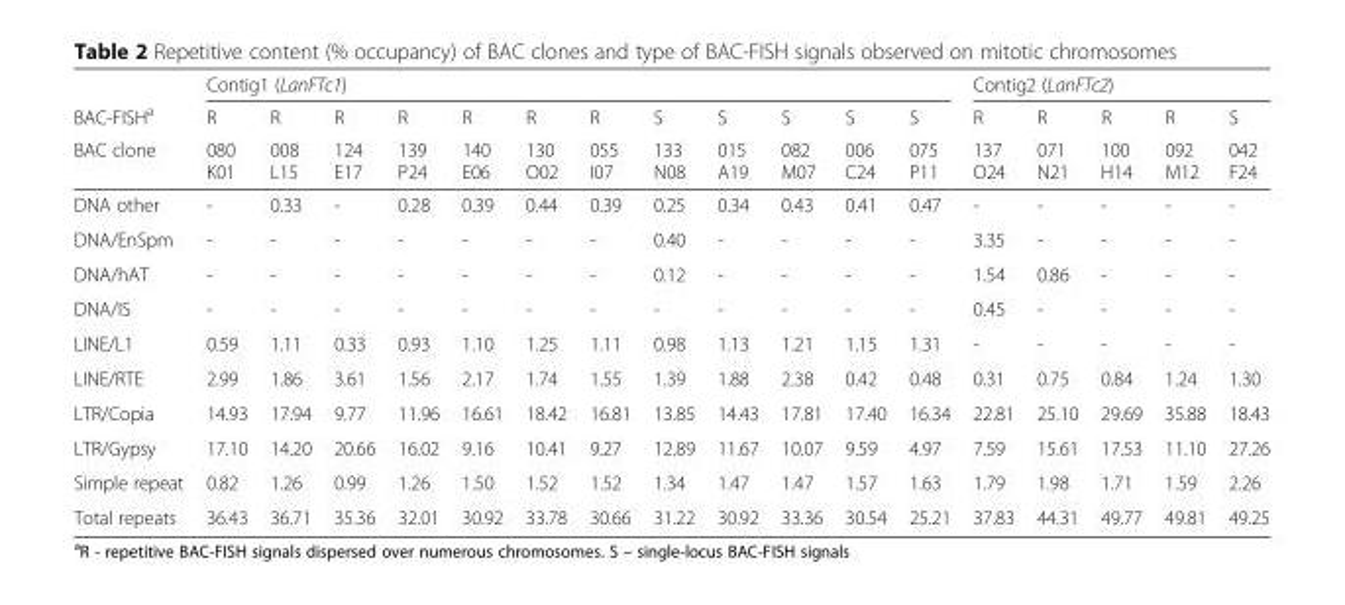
<table><thead><tr><td rowspan="3">BAC-FISH<sup>a</sup> BAC clone</td><td colspan="12">Contig1 (LanFTc1)</td><td colspan="5">Contig2 (LanFTc2)</td></tr><tr><td rowspan="2">R 080 K01</td><td rowspan="2">R 008 L15</td><td rowspan="2">R 124 E17</td><td rowspan="2">R 139 P24</td><td rowspan="2">R 140 E06</td><td rowspan="2">R 130 O02</td><td rowspan="2">R 055 I07</td><td rowspan="2">S 133 N08</td><td rowspan="2">S 015 A19</td><td rowspan="2">S 082 M07</td><td rowspan="2">S 006 C24</td><td rowspan="2">S 075 P11</td><td rowspan="2">R 137 O24</td><td rowspan="2">R 071 N21</td><td rowspan="2">R 100 H14</td><td rowspan="2">R 092 M12</td><td rowspan="2">S 042 F24</td></tr><tr></tr></thead><tbody><tr><td>DNA other</td><td>-</td><td>0.33</td><td>-</td><td>0.28</td><td>0.39</td><td>0.44</td><td>0.39</td><td>0.25</td><td>0.34</td><td>0.43</td><td>0.41</td><td>0.47</td><td>-</td><td>-</td><td>-</td><td>-</td><td>-</td></tr><tr><td>DNA/EnSpm</td><td>-</td><td>-</td><td>-</td><td>-</td><td>-</td><td>-</td><td>-</td><td>0.40</td><td>-</td><td>-</td><td>-</td><td>-</td><td>3.35</td><td>-</td><td>-</td><td>-</td><td>-</td></tr><tr><td>DNA/hAT</td><td>-</td><td>-</td><td>-</td><td>-</td><td>-</td><td>-</td><td>-</td><td>0.12</td><td>-</td><td>-</td><td>-</td><td>-</td><td>1.54</td><td>0.86</td><td>-</td><td>-</td><td>-</td></tr><tr><td>DNA/IS</td><td>-</td><td>-</td><td>-</td><td>-</td><td>-</td><td>-</td><td>-</td><td>-</td><td>-</td><td>-</td><td>-</td><td>-</td><td>0.45</td><td>-</td><td>-</td><td>-</td><td>-</td></tr><tr><td>LINE/L1</td><td>0.59</td><td>1.11</td><td>0.33</td><td>0.93</td><td>1.10</td><td>1.25</td><td>1.11</td><td>0.98</td><td>1.13</td><td>1.21</td><td>1.15</td><td>1.31</td><td>-</td><td>-</td><td>-</td><td>-</td><td>-</td></tr><tr><td>LINE/RTE</td><td>2.99</td><td>1.86</td><td>3.61</td><td>1.56</td><td>2.17</td><td>1.74</td><td>1.55</td><td>1.39</td><td>1.88</td><td>2.38</td><td>0.42</td><td>0.48</td><td>0.31</td><td>0.75</td><td>0.84</td><td>1.24</td><td>1.30</td></tr><tr><td>LTR/Copia</td><td>14.93</td><td>17.94</td><td>9.77</td><td>11.96</td><td>16.61</td><td>18.42</td><td>16.81</td><td>13.85</td><td>14.43</td><td>17.81</td><td>17.40</td><td>16.34</td><td>22.81</td><td>25.10</td><td>29.69</td><td>35.88</td><td>18.43</td></tr><tr><td>LTR/Gypsy</td><td>17.10</td><td>14.20</td><td>20.66</td><td>16.02</td><td>9.16</td><td>10.41</td><td>9.27</td><td>12.89</td><td>11.67</td><td>10.07</td><td>9.59</td><td>4.97</td><td>7.59</td><td>15.61</td><td>17.53</td><td>11.10</td><td>27.26</td></tr><tr><td>Simple repeat</td><td>0.82</td><td>1.26</td><td>0.99</td><td>1.26</td><td>1.50</td><td>1.52</td><td>1.52</td><td>1.34</td><td>1.47</td><td>1.47</td><td>1.57</td><td>1.63</td><td>1.79</td><td>1.98</td><td>1.71</td><td>1.59</td><td>2.26</td></tr><tr><td>Total repeats</td><td>36.43</td><td>36.71</td><td>35.36</td><td>32.01</td><td>30.92</td><td>33.78</td><td>30.66</td><td>31.22</td><td>30.92</td><td>33.36</td><td>30.54</td><td>25.21</td><td>37.83</td><td>44.31</td><td>49.77</td><td>49.81</td><td>49.25</td></tr></tbody></table>